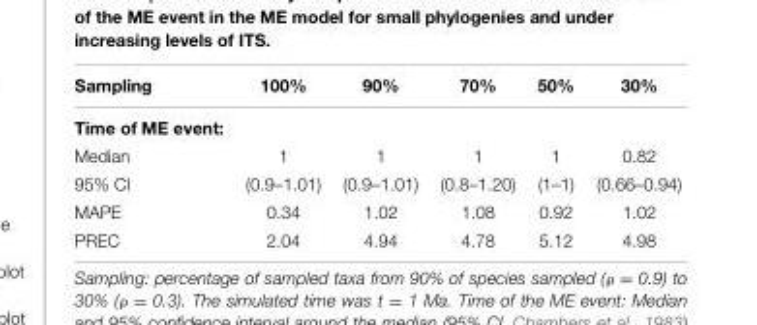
<table><thead><tr><td>Sampling</td><td>100%</td><td>90%</td><td>70%</td><td>50%</td><td>30%</td></tr></thead><tbody><tr><td colspan="6">Time of ME event:</td></tr><tr><td>Median</td><td>1</td><td>1</td><td>1</td><td>1</td><td>0.82</td></tr><tr><td>95% CI</td><td>(0.9–1.01)</td><td>(0.9–1.01)</td><td>(0.8–1.20)</td><td>(1–1)</td><td>(0.66–0.94)</td></tr><tr><td>MAPE</td><td>0.34</td><td>1.02</td><td>1.08</td><td>0.92</td><td>1.02</td></tr><tr><td>PREC</td><td>2.04</td><td>4.94</td><td>4.78</td><td>5.12</td><td>4.98</td></tr></tbody></table>